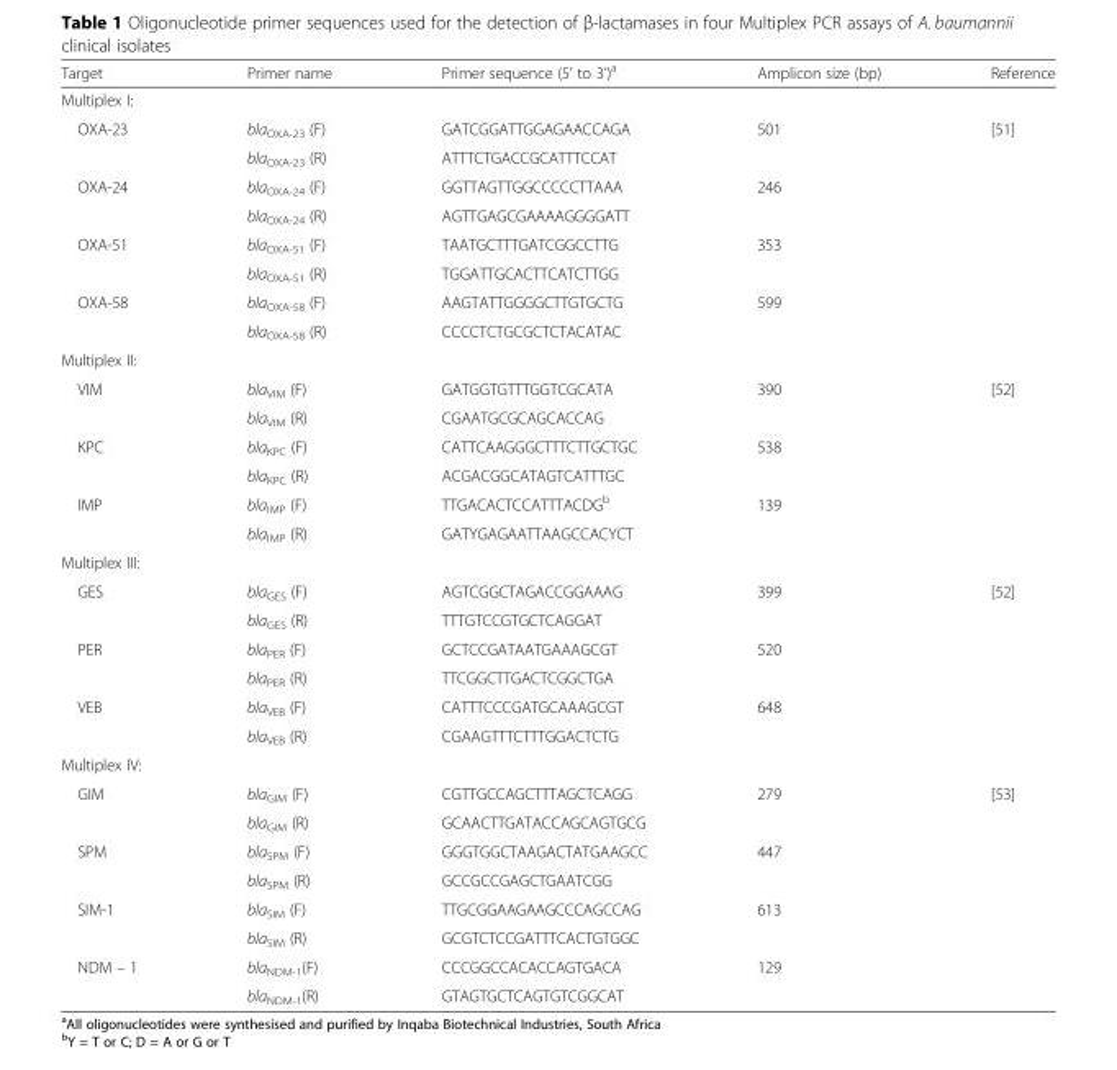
<table><thead><tr><td>Target</td><td>Primer name</td><td>Primer sequence (5’ to 3’)<sup>a</sup></td><td>Amplicon size (bp)</td><td>Reference</td></tr></thead><tbody><tr><td colspan="5">Multiplex I:</td></tr><tr><td rowspan="2">OXA-23</td><td>bla<sub>OXA-23</sub> (F)</td><td>GATCGGATTGGAGAACCAGA</td><td rowspan="2">501</td><td rowspan="8">[51]</td></tr><tr><td>bla<sub>OXA-23</sub> (R)</td><td>ATTTCTGACCGCATTTCCAT</td></tr><tr><td rowspan="2">OXA-24</td><td>bla<sub>OXA-24</sub> (F)</td><td>GGTTAGTTGGCCCCCTTAAA</td><td rowspan="2">246</td></tr><tr><td>bla<sub>OXA-24</sub> (R)</td><td>AGTTGAGCGAAAAGGGGATT</td></tr><tr><td rowspan="2">OXA-51</td><td>bla<sub>OXA-51</sub> (F)</td><td>TAATGCTTTGATCGGCCTTG</td><td rowspan="2">353</td></tr><tr><td>bla<sub>OXA-51</sub> (R)</td><td>TGGATTGCACTTCATCTTGG</td></tr><tr><td rowspan="2">OXA-58</td><td>bla<sub>OXA-58</sub> (F)</td><td>AAGTATTGGGGCTTGTGCTG</td><td rowspan="2">599</td></tr><tr><td>bla<sub>OXA-58</sub> (R)</td><td>CCCCTCTGCGCTCTACATAC</td></tr><tr><td colspan="5">Multiplex II:</td></tr><tr><td rowspan="2">VIM</td><td>bla<sub>VIM</sub> (F)</td><td>GATGGTGTTTGGTCGCATA</td><td rowspan="2">390</td><td rowspan="6">[52]</td></tr><tr><td>bla<sub>VIM</sub> (R)</td><td>CGAATGCGCAGCACCAG</td></tr><tr><td rowspan="2">KPC</td><td>bla<sub>KPC</sub> (F)</td><td>CATTCAAGGGCTTTCTTGCTGC</td><td rowspan="2">538</td></tr><tr><td>bla<sub>KPC</sub> (R)</td><td>ACGACGGCATAGTCATTTGC</td></tr><tr><td rowspan="2">IMP</td><td>bla<sub>IMP</sub> (F)</td><td>TTGACACTCCATTTACDG<sup>b</sup></td><td rowspan="2">139</td></tr><tr><td>bla<sub>IMP</sub> (R)</td><td>GATYGAGAATTAAGCCACYCT</td></tr><tr><td colspan="5">Multiplex III:</td></tr><tr><td rowspan="2">GES</td><td>bla<sub>GES</sub> (F)</td><td>AGTCGGCTAGACCGGAAAG</td><td rowspan="2">399</td><td rowspan="6">[52]</td></tr><tr><td>bla<sub>GES</sub> (R)</td><td>TTTGTCCGTGCTCAGGAT</td></tr><tr><td rowspan="2">PER</td><td>bla<sub>PER</sub> (F)</td><td>GCTCCGATAATGAAAGCGT</td><td rowspan="2">520</td></tr><tr><td>bla<sub>PER</sub> (R)</td><td>TTCGGCTTGACTCGGCTGA</td></tr><tr><td rowspan="2">VEB</td><td>bla<sub>VEB</sub> (F)</td><td>CATTTCCCGATGCAAAGCGT</td><td rowspan="2">648</td></tr><tr><td>bla<sub>VEB</sub> (R)</td><td>CGAAGTTTCTTTGGACTCTG</td></tr><tr><td colspan="5">Multiplex IV:</td></tr><tr><td rowspan="2">GIM</td><td>bla<sub>GIM</sub> (F)</td><td>CGTTGCCAGCTTTAGCTCAGG</td><td rowspan="2">279</td><td rowspan="8">[53]</td></tr><tr><td>bla<sub>GIM</sub> (R)</td><td>GCAACTTGATACCAGCAGTGCG</td></tr><tr><td rowspan="2">SPM</td><td>bla<sub>SPM</sub> (F)</td><td>GGGTGGCTAAGACTATGAAGCC</td><td rowspan="2">447</td></tr><tr><td>bla<sub>SPM</sub> (R)</td><td>GCCGCCGAGCTGAATCGG</td></tr><tr><td rowspan="2">SIM-1</td><td>bla<sub>SIM</sub> (F)</td><td>TTGCGGAAGAAGCCCAGCCAG</td><td rowspan="2">613</td></tr><tr><td>bla<sub>SIM</sub> (R)</td><td>GCGTCTCCGATTTCACTGTGGC</td></tr><tr><td rowspan="2">NDM – 1</td><td>bla<sub>NDM-1</sub>(F)</td><td>CCCGGCCACACCAGTGACA</td><td rowspan="2">129</td></tr><tr><td>bla<sub>NDM-1</sub>(R)</td><td>GTAGTGCTCAGTGTCGGCAT</td></tr></tbody></table>